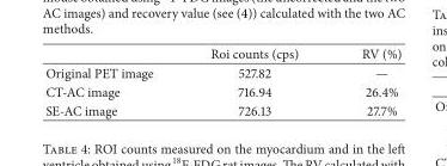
<table><thead><tr><td></td><td>Roi counts (cps)</td><td>RV (%)</td></tr></thead><tbody><tr><td>Original PET image</td><td>527.82</td><td>—</td></tr><tr><td>CT-AC image</td><td>716.94</td><td>26.4%</td></tr><tr><td>SE-AC image</td><td>726.13</td><td>27.7%</td></tr></tbody></table>